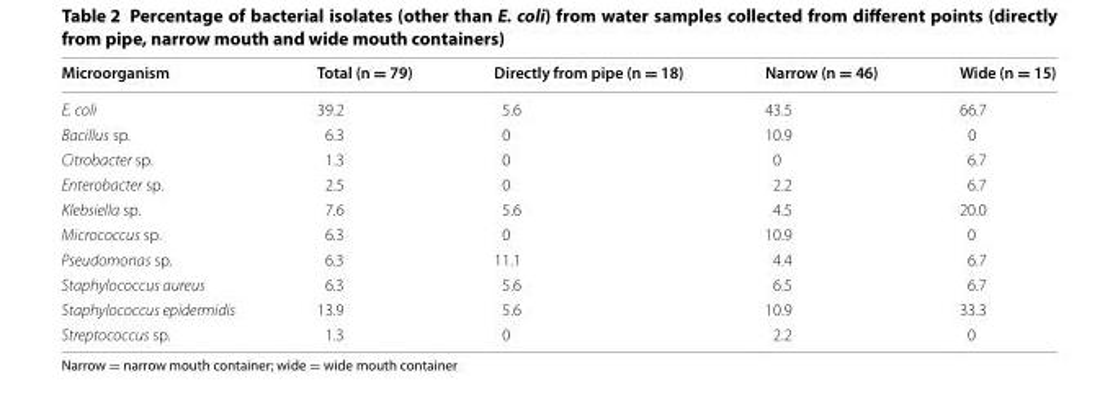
<table><thead><tr><td>Microorganism</td><td>Total (n = 79)</td><td>Directly from pipe (n = 18)</td><td>Narrow (n = 46)</td><td>Wide (n = 15)</td></tr></thead><tbody><tr><td>E. coli</td><td>39.2</td><td>5.6</td><td>43.5</td><td>66.7</td></tr><tr><td>Bacillus sp.</td><td>6.3</td><td>0</td><td>10.9</td><td>0</td></tr><tr><td>Citrobacter sp.</td><td>1.3</td><td>0</td><td>0</td><td>6.7</td></tr><tr><td>Enterobacter sp.</td><td>2.5</td><td>0</td><td>2.2</td><td>6.7</td></tr><tr><td>Klebsiella sp.</td><td>7.6</td><td>5.6</td><td>4.5</td><td>20.0</td></tr><tr><td>Micrococcus sp.</td><td>6.3</td><td>0</td><td>10.9</td><td>0</td></tr><tr><td>Pseudomonas sp.</td><td>6.3</td><td>11.1</td><td>4.4</td><td>6.7</td></tr><tr><td>Staphylococcus aureus</td><td>6.3</td><td>5.6</td><td>6.5</td><td>6.7</td></tr><tr><td>Staphylococcus epidermidis</td><td>13.9</td><td>5.6</td><td>10.9</td><td>33.3</td></tr><tr><td>Streptococcus sp.</td><td>1.3</td><td>0</td><td>2.2</td><td>0</td></tr></tbody></table>